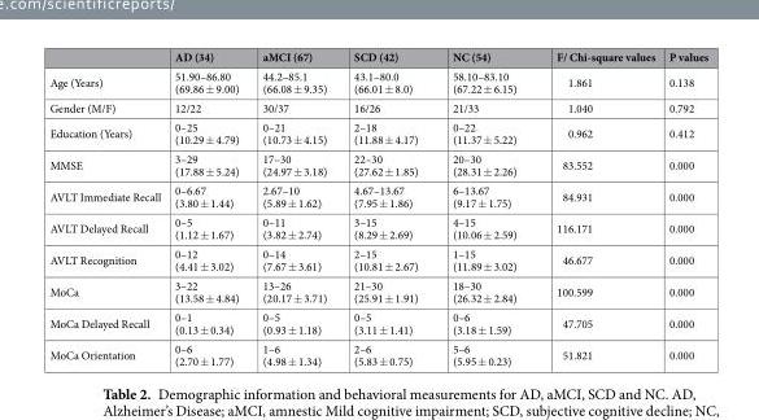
<table><thead><tr><td></td><td>AD (34)</td><td>aMCI (67)</td><td>SCD (42)</td><td>NC (54)</td><td>F/ Chi-square values</td><td>P values</td></tr></thead><tbody><tr><td>Age (Years)</td><td>51.90–86.80 (69.86 ± 9.00)</td><td>44.2–85.1 (66.08 ± 9.35)</td><td>43.1–80.0 (66.01 ± 8.0)</td><td>58.10–83.10 (67.22 ± 6.15)</td><td>1.861</td><td>0.138</td></tr><tr><td>Gender (M/F)</td><td>12/22</td><td>30/37</td><td>16/26</td><td>21/33</td><td>1.040</td><td>0.792</td></tr><tr><td>Education (Years)</td><td>0–25 (10.29 ± 4.79)</td><td>0–21 (10.73 ± 4.15)</td><td>2–18 (11.88 ± 4.17)</td><td>0–22 (11.37 ± 5.22)</td><td>0.962</td><td>0.412</td></tr><tr><td>MMSE</td><td>3–29 (17.88 ± 5.24)</td><td>17–30 (24.97 ± 3.18)</td><td>22–30 (27.62 ± 1.85)</td><td>20–30 (28.31 ± 2.26)</td><td>83.552</td><td>0.000</td></tr><tr><td>AVLT Immediate Recall</td><td>0–6.67 (3.80 ± 1.44)</td><td>2.67–10 (5.89 ± 1.62)</td><td>4.67–13.67 (7.95 ± 1.86)</td><td>6–13.67 (9.17 ± 1.75)</td><td>84.931</td><td>0.000</td></tr><tr><td>AVLT Delayed Recall</td><td>0–5 (1.12 ± 1.67)</td><td>0–11 (3.82 ± 2.74)</td><td>3–15 (8.29 ± 2.69)</td><td>4–15 (10.06 ± 2.59)</td><td>116.171</td><td>0.000</td></tr><tr><td>AVLT Recognition</td><td>0–12 (4.41 ± 3.02)</td><td>0–14 (7.67 ± 3.61)</td><td>2–15 (10.81 ± 2.67)</td><td>1–15 (11.89 ± 3.02)</td><td>46.677</td><td>0.000</td></tr><tr><td>MoCa</td><td>3–22 (13.58 ± 4.84)</td><td>13–26 (20.17 ± 3.71)</td><td>21–30 (25.91 ± 1.91)</td><td>18–30 (26.32 ± 2.84)</td><td>100.599</td><td>0.000</td></tr><tr><td>MoCa Delayed Recall</td><td>0–1 (0.13 ± 0.34)</td><td>0–5 (0.93 ± 1.18)</td><td>0–5 (3.11 ± 1.41)</td><td>0–6 (3.18 ± 1.59)</td><td>47.705</td><td>0.000</td></tr><tr><td>MoCa Orientation</td><td>0–6 (2.70 ± 1.77)</td><td>1–6 (4.98 ± 1.34)</td><td>2–6 (5.83 ± 0.75)</td><td>5–6 (5.95 ± 0.23)</td><td>51.821</td><td>0.000</td></tr></tbody></table>